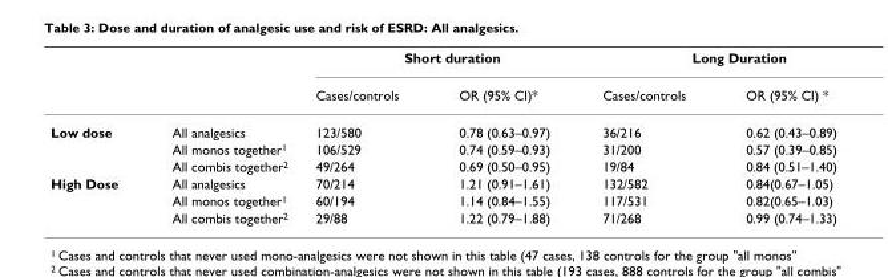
<table><thead><tr><td rowspan="2"></td><td rowspan="2"></td><td colspan="2">Short duration</td><td colspan="2">Long Duration</td></tr><tr><td>Cases/controls</td><td>OR (95% CI)*</td><td>Cases/controls</td><td>OR (95% CI) *</td></tr></thead><tbody><tr><td rowspan="3">Low dose</td><td>All analgesics</td><td>123/580</td><td>0.78 (0.63–0.97)</td><td>36/216</td><td>0.62 (0.43–0.89)</td></tr><tr><td>All monos together<sup>1</sup></td><td>106/529</td><td>0.74 (0.59–0.93)</td><td>31/200</td><td>0.57 (0.39–0.85)</td></tr><tr><td>All combis together<sup>2</sup></td><td>49/264</td><td>0.69 (0.50–0.95)</td><td>19/84</td><td>0.84 (0.51–1.40)</td></tr><tr><td rowspan="3">High Dose</td><td>All analgesics</td><td>70/214</td><td>1.21 (0.91–1.61)</td><td>132/582</td><td>0.84(0.67–1.05)</td></tr><tr><td>All monos together<sup>1</sup></td><td>60/194</td><td>1.14 (0.84–1.55)</td><td>117/531</td><td>0.82(0.65–1.03)</td></tr><tr><td>All combis together<sup>2</sup></td><td>29/88</td><td>1.22 (0.79–1.88)</td><td>71/268</td><td>0.99 (0.74–1.33)</td></tr></tbody></table>